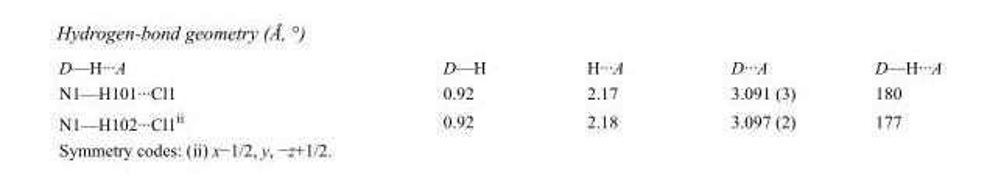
<table><tbody><tr><td>D—H···A</td><td>D—H</td><td>H···A</td><td>D···A</td><td>D—H···A</td></tr><tr><td>N1—H101···Cl1</td><td>0.92</td><td>2.17</td><td>3.091 (3)</td><td>180</td></tr><tr><td>N1—H102···Cl1<sup>ii</sup></td><td>0.92</td><td>2.18</td><td>3.097 (2)</td><td>177</td></tr></tbody></table>